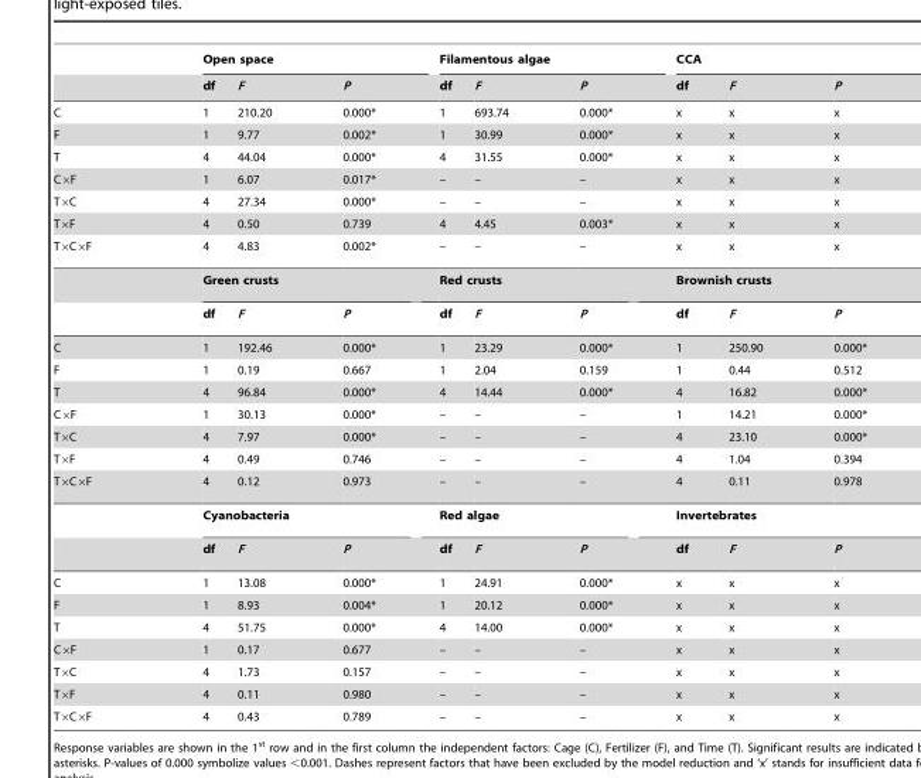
<table><thead><tr><td rowspan="2"></td><td colspan="3">Open space</td><td colspan="3">Filamentous algae</td><td colspan="3">CCA</td></tr><tr><td>df</td><td>F</td><td>P</td><td>df</td><td>F</td><td>P</td><td>df</td><td>F</td><td>P</td></tr></thead><tbody><tr><td>C</td><td>1</td><td>210.20</td><td>0.000*</td><td>1</td><td>693.74</td><td>0.000*</td><td>x</td><td>x</td><td>x</td></tr><tr><td>F</td><td>1</td><td>9.77</td><td>0.002*</td><td>1</td><td>30.99</td><td>0.000*</td><td>x</td><td>x</td><td>x</td></tr><tr><td>T</td><td>4</td><td>44.04</td><td>0.000*</td><td>4</td><td>31.55</td><td>0.000*</td><td>x</td><td>x</td><td>x</td></tr><tr><td>C×F</td><td>1</td><td>6.07</td><td>0.017*</td><td>–</td><td>–</td><td>–</td><td>x</td><td>x</td><td>x</td></tr><tr><td>T×C</td><td>4</td><td>27.34</td><td>0.000*</td><td>–</td><td>–</td><td>–</td><td>x</td><td>x</td><td>x</td></tr><tr><td>T×F</td><td>4</td><td>0.50</td><td>0.739</td><td>4</td><td>4.45</td><td>0.003*</td><td>x</td><td>x</td><td>x</td></tr><tr><td rowspan="3">T×C×F</td><td>4</td><td>4.83</td><td>0.002*</td><td>–</td><td>–</td><td>–</td><td>x</td><td>x</td><td>x</td></tr><tr><td colspan="3">Green crusts</td><td colspan="3">Red crusts</td><td colspan="3">Brownish crusts</td></tr><tr><td>df</td><td>F</td><td>P</td><td>df</td><td>F</td><td>P</td><td>df</td><td>F</td><td>P</td></tr><tr><td>C</td><td>1</td><td>192.46</td><td>0.000*</td><td>1</td><td>23.29</td><td>0.000*</td><td>1</td><td>250.90</td><td>0.000*</td></tr><tr><td>F</td><td>1</td><td>0.19</td><td>0.667</td><td>1</td><td>2.04</td><td>0.159</td><td>1</td><td>0.44</td><td>0.512</td></tr><tr><td>T</td><td>4</td><td>96.84</td><td>0.000*</td><td>4</td><td>14.44</td><td>0.000*</td><td>4</td><td>16.82</td><td>0.000*</td></tr><tr><td>C×F</td><td>1</td><td>30.13</td><td>0.000*</td><td>–</td><td>–</td><td>–</td><td>1</td><td>14.21</td><td>0.000*</td></tr><tr><td>T×C</td><td>4</td><td>7.97</td><td>0.000*</td><td>–</td><td>–</td><td>–</td><td>4</td><td>23.10</td><td>0.000*</td></tr><tr><td>T×F</td><td>4</td><td>0.49</td><td>0.746</td><td>–</td><td>–</td><td>–</td><td>4</td><td>1.04</td><td>0.394</td></tr><tr><td rowspan="3">T×C×F</td><td>4</td><td>0.12</td><td>0.973</td><td>–</td><td>–</td><td>–</td><td>4</td><td>0.11</td><td>0.978</td></tr><tr><td colspan="3">Cyanobacteria</td><td colspan="3">Red algae</td><td colspan="3">Invertebrates</td></tr><tr><td>df</td><td>F</td><td>P</td><td>df</td><td>F</td><td>P</td><td>df</td><td>F</td><td>P</td></tr><tr><td>C</td><td>1</td><td>13.08</td><td>0.000*</td><td>1</td><td>24.91</td><td>0.000*</td><td>x</td><td>x</td><td>x</td></tr><tr><td>F</td><td>1</td><td>8.93</td><td>0.004*</td><td>1</td><td>20.12</td><td>0.000*</td><td>x</td><td>x</td><td>x</td></tr><tr><td>T</td><td>4</td><td>51.75</td><td>0.000*</td><td>4</td><td>14.00</td><td>0.000*</td><td>x</td><td>x</td><td>x</td></tr><tr><td>C×F</td><td>1</td><td>0.17</td><td>0.677</td><td>–</td><td>–</td><td>–</td><td>x</td><td>x</td><td>x</td></tr><tr><td>T×C</td><td>4</td><td>1.73</td><td>0.157</td><td>–</td><td>–</td><td>–</td><td>x</td><td>x</td><td>x</td></tr><tr><td>T×F</td><td>4</td><td>0.11</td><td>0.980</td><td>–</td><td>–</td><td>–</td><td>x</td><td>x</td><td>x</td></tr><tr><td>T×C×F</td><td>4</td><td>0.43</td><td>0.789</td><td>–</td><td>–</td><td>–</td><td>x</td><td>x</td><td>x</td></tr></tbody></table>